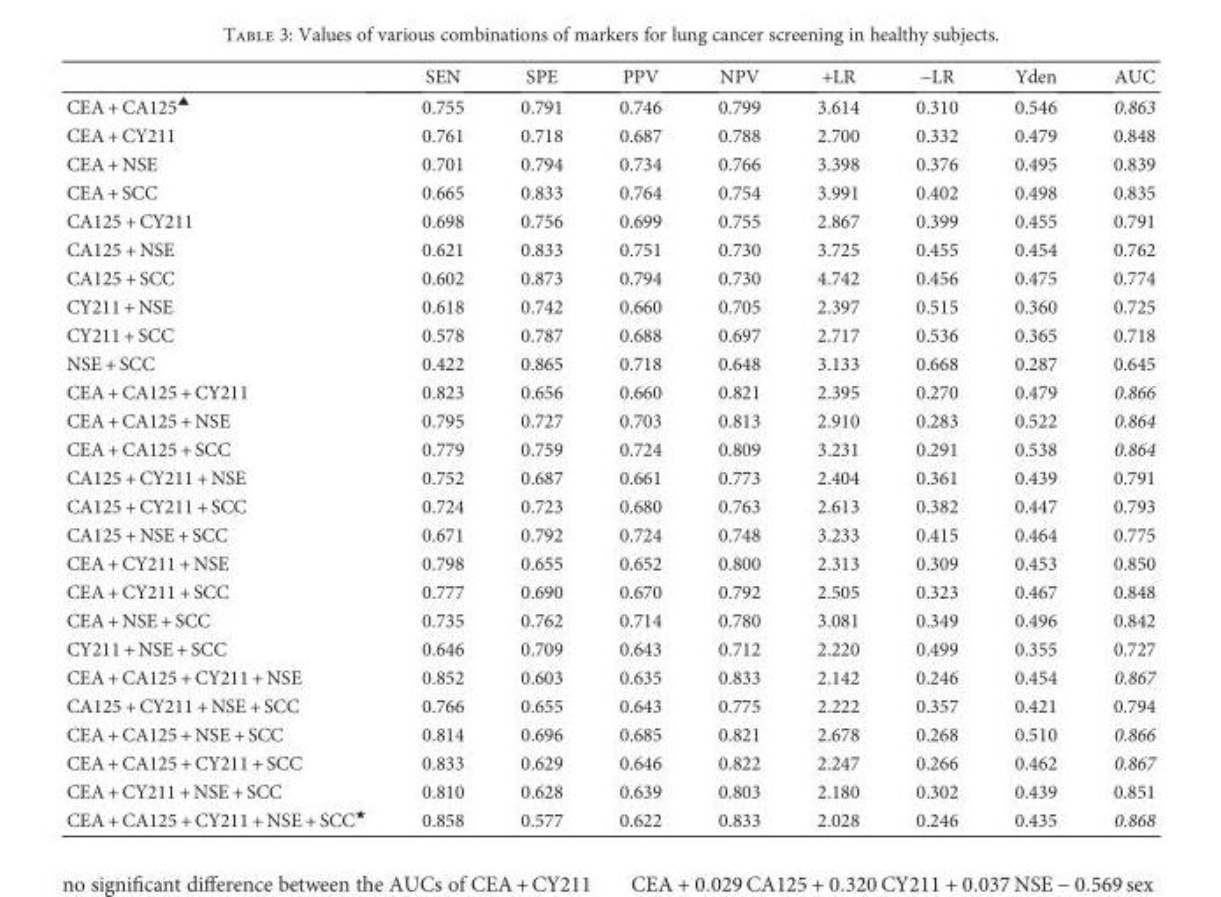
<table><thead><tr><td></td><td>SEN</td><td>SPE</td><td>PPV</td><td>NPV</td><td>+LR</td><td>−LR</td><td>Yden</td><td>AUC</td></tr></thead><tbody><tr><td>CEA + CA125<sup>▲</sup></td><td>0.755</td><td>0.791</td><td>0.746</td><td>0.799</td><td>3.614</td><td>0.310</td><td>0.546</td><td>0.863</td></tr><tr><td>CEA + CY211</td><td>0.761</td><td>0.718</td><td>0.687</td><td>0.788</td><td>2.700</td><td>0.332</td><td>0.479</td><td>0.848</td></tr><tr><td>CEA + NSE</td><td>0.701</td><td>0.794</td><td>0.734</td><td>0.766</td><td>3.398</td><td>0.376</td><td>0.495</td><td>0.839</td></tr><tr><td>CEA + SCC</td><td>0.665</td><td>0.833</td><td>0.764</td><td>0.754</td><td>3.991</td><td>0.402</td><td>0.498</td><td>0.835</td></tr><tr><td>CA125 + CY211</td><td>0.698</td><td>0.756</td><td>0.699</td><td>0.755</td><td>2.867</td><td>0.399</td><td>0.455</td><td>0.791</td></tr><tr><td>CA125 + NSE</td><td>0.621</td><td>0.833</td><td>0.751</td><td>0.730</td><td>3.725</td><td>0.455</td><td>0.454</td><td>0.762</td></tr><tr><td>CA125 + SCC</td><td>0.602</td><td>0.873</td><td>0.794</td><td>0.730</td><td>4.742</td><td>0.456</td><td>0.475</td><td>0.774</td></tr><tr><td>CY211 + NSE</td><td>0.618</td><td>0.742</td><td>0.660</td><td>0.705</td><td>2.397</td><td>0.515</td><td>0.360</td><td>0.725</td></tr><tr><td>CY211 + SCC</td><td>0.578</td><td>0.787</td><td>0.688</td><td>0.697</td><td>2.717</td><td>0.536</td><td>0.365</td><td>0.718</td></tr><tr><td>NSE + SCC</td><td>0.422</td><td>0.865</td><td>0.718</td><td>0.648</td><td>3.133</td><td>0.668</td><td>0.287</td><td>0.645</td></tr><tr><td>CEA + CA125 + CY211</td><td>0.823</td><td>0.656</td><td>0.660</td><td>0.821</td><td>2.395</td><td>0.270</td><td>0.479</td><td>0.866</td></tr><tr><td>CEA + CA125 + NSE</td><td>0.795</td><td>0.727</td><td>0.703</td><td>0.813</td><td>2.910</td><td>0.283</td><td>0.522</td><td>0.864</td></tr><tr><td>CEA + CA125 + SCC</td><td>0.779</td><td>0.759</td><td>0.724</td><td>0.809</td><td>3.231</td><td>0.291</td><td>0.538</td><td>0.864</td></tr><tr><td>CA125 + CY211 + NSE</td><td>0.752</td><td>0.687</td><td>0.661</td><td>0.773</td><td>2.404</td><td>0.361</td><td>0.439</td><td>0.791</td></tr><tr><td>CA125 + CY211 + SCC</td><td>0.724</td><td>0.723</td><td>0.680</td><td>0.763</td><td>2.613</td><td>0.382</td><td>0.447</td><td>0.793</td></tr><tr><td>CA125 + NSE + SCC</td><td>0.671</td><td>0.792</td><td>0.724</td><td>0.748</td><td>3.233</td><td>0.415</td><td>0.464</td><td>0.775</td></tr><tr><td>CEA + CY211 + NSE</td><td>0.798</td><td>0.655</td><td>0.652</td><td>0.800</td><td>2.313</td><td>0.309</td><td>0.453</td><td>0.850</td></tr><tr><td>CEA + CY211 + SCC</td><td>0.777</td><td>0.690</td><td>0.670</td><td>0.792</td><td>2.505</td><td>0.323</td><td>0.467</td><td>0.848</td></tr><tr><td>CEA + NSE + SCC</td><td>0.735</td><td>0.762</td><td>0.714</td><td>0.780</td><td>3.081</td><td>0.349</td><td>0.496</td><td>0.842</td></tr><tr><td>CY211 + NSE + SCC</td><td>0.646</td><td>0.709</td><td>0.643</td><td>0.712</td><td>2.220</td><td>0.499</td><td>0.355</td><td>0.727</td></tr><tr><td>CEA + CA125 + CY211 + NSE</td><td>0.852</td><td>0.603</td><td>0.635</td><td>0.833</td><td>2.142</td><td>0.246</td><td>0.454</td><td>0.867</td></tr><tr><td>CA125 + CY211 + NSE + SCC</td><td>0.766</td><td>0.655</td><td>0.643</td><td>0.775</td><td>2.222</td><td>0.357</td><td>0.421</td><td>0.794</td></tr><tr><td>CEA + CA125 + NSE + SCC</td><td>0.814</td><td>0.696</td><td>0.685</td><td>0.821</td><td>2.678</td><td>0.268</td><td>0.510</td><td>0.866</td></tr><tr><td>CEA + CA125 + CY211 + SCC</td><td>0.833</td><td>0.629</td><td>0.646</td><td>0.822</td><td>2.247</td><td>0.266</td><td>0.462</td><td>0.867</td></tr><tr><td>CEA + CY211 + NSE + SCC</td><td>0.810</td><td>0.628</td><td>0.639</td><td>0.803</td><td>2.180</td><td>0.302</td><td>0.439</td><td>0.851</td></tr><tr><td>CEA + CA125 + CY211 + NSE + SCC<sup>★</sup></td><td>0.858</td><td>0.577</td><td>0.622</td><td>0.833</td><td>2.028</td><td>0.246</td><td>0.435</td><td>0.868</td></tr></tbody></table>